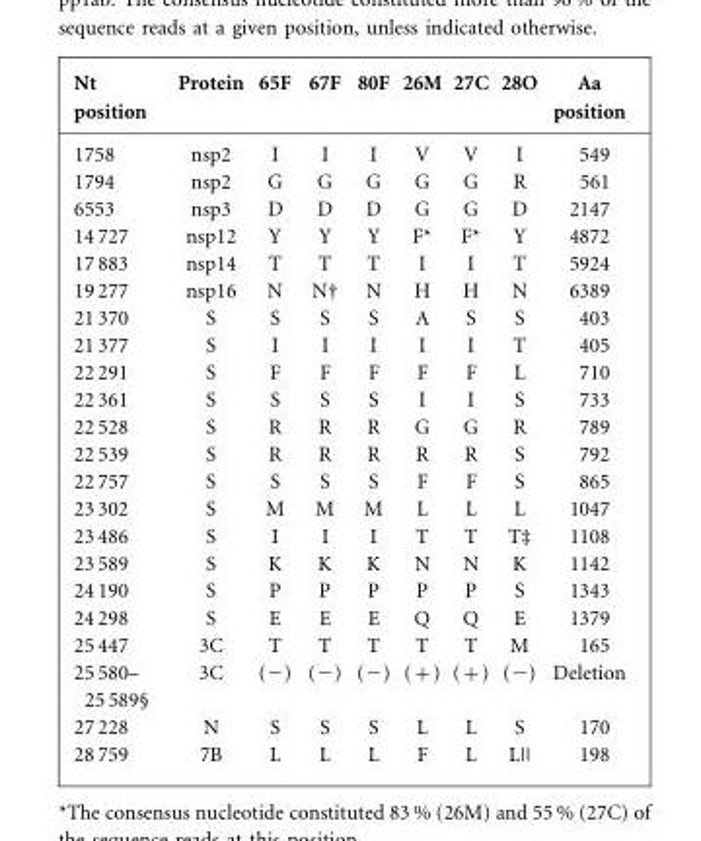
<table><thead><tr><td>Nt position</td><td>Protein</td><td>65F</td><td>67F</td><td>80F</td><td>26M</td><td>27C</td><td>28O</td><td>Aa position</td></tr></thead><tbody><tr><td>1758</td><td>nsp2</td><td>I</td><td>I</td><td>I</td><td>V</td><td>V</td><td>I</td><td>549</td></tr><tr><td>1794</td><td>nsp2</td><td>G</td><td>G</td><td>G</td><td>G</td><td>G</td><td>R</td><td>561</td></tr><tr><td>6553</td><td>nsp3</td><td>D</td><td>D</td><td>D</td><td>G</td><td>G</td><td>D</td><td>2147</td></tr><tr><td>14 727</td><td>nsp12</td><td>Y</td><td>Y</td><td>Y</td><td>F*</td><td>F*</td><td>Y</td><td>4872</td></tr><tr><td>17 883</td><td>nsp14</td><td>T</td><td>T</td><td>T</td><td>I</td><td>I</td><td>T</td><td>5924</td></tr><tr><td>19 277</td><td>nsp16</td><td>N</td><td>N†</td><td>N</td><td>H</td><td>H</td><td>N</td><td>6389</td></tr><tr><td>21 370</td><td>S</td><td>S</td><td>S</td><td>S</td><td>A</td><td>S</td><td>S</td><td>403</td></tr><tr><td>21 377</td><td>S</td><td>I</td><td>I</td><td>I</td><td>I</td><td>I</td><td>T</td><td>405</td></tr><tr><td>22 291</td><td>S</td><td>F</td><td>F</td><td>F</td><td>F</td><td>F</td><td>L</td><td>710</td></tr><tr><td>22 361</td><td>S</td><td>S</td><td>S</td><td>S</td><td>I</td><td>I</td><td>S</td><td>733</td></tr><tr><td>22 528</td><td>S</td><td>R</td><td>R</td><td>R</td><td>G</td><td>G</td><td>R</td><td>789</td></tr><tr><td>22 539</td><td>S</td><td>R</td><td>R</td><td>R</td><td>R</td><td>R</td><td>S</td><td>792</td></tr><tr><td>22 757</td><td>S</td><td>S</td><td>S</td><td>S</td><td>F</td><td>F</td><td>S</td><td>865</td></tr><tr><td>23 302</td><td>S</td><td>M</td><td>M</td><td>M</td><td>L</td><td>L</td><td>L</td><td>1047</td></tr><tr><td>23 486</td><td>S</td><td>I</td><td>I</td><td>I</td><td>T</td><td>T</td><td>T‡</td><td>1108</td></tr><tr><td>23 589</td><td>S</td><td>K</td><td>K</td><td>K</td><td>N</td><td>N</td><td>K</td><td>1142</td></tr><tr><td>24 190</td><td>S</td><td>P</td><td>P</td><td>P</td><td>P</td><td>P</td><td>S</td><td>1343</td></tr><tr><td>24 298</td><td>S</td><td>E</td><td>E</td><td>E</td><td>Q</td><td>Q</td><td>E</td><td>1379</td></tr><tr><td>25 447</td><td>3C</td><td>T</td><td>T</td><td>T</td><td>T</td><td>T</td><td>M</td><td>165</td></tr><tr><td>25 580– 25 589§</td><td>3C</td><td>(−)</td><td>(−)</td><td>(−)</td><td>(+)</td><td>(+)</td><td>(−)</td><td>Deletion</td></tr><tr><td>27 228</td><td>N</td><td>S</td><td>S</td><td>S</td><td>L</td><td>L</td><td>S</td><td>170</td></tr><tr><td>28 759</td><td>7B</td><td>L</td><td>L</td><td>L</td><td>F</td><td>L</td><td>L||</td><td>198</td></tr></tbody></table>